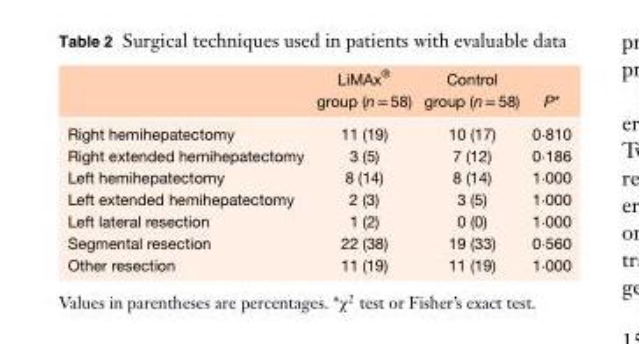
<table><thead><tr><td></td><td>LiMAx<sup>®</sup> group (n = 58)</td><td>Control group (n = 58)</td><td>P*</td></tr></thead><tbody><tr><td>Right hemihepatectomy</td><td>11 (19)</td><td>10 (17)</td><td>0⋅810</td></tr><tr><td>Right extended hemihepatectomy</td><td>3 (5)</td><td>7 (12)</td><td>0⋅186</td></tr><tr><td>Left hemihepatectomy</td><td>8 (14)</td><td>8 (14)</td><td>1⋅000</td></tr><tr><td>Left extended hemihepatectomy</td><td>2 (3)</td><td>3 (5)</td><td>1⋅000</td></tr><tr><td>Left lateral resection</td><td>1 (2)</td><td>0 (0)</td><td>1⋅000</td></tr><tr><td>Segmental resection</td><td>22 (38)</td><td>19 (33)</td><td>0⋅560</td></tr><tr><td>Other resection</td><td>11 (19)</td><td>11 (19)</td><td>1⋅000</td></tr></tbody></table>